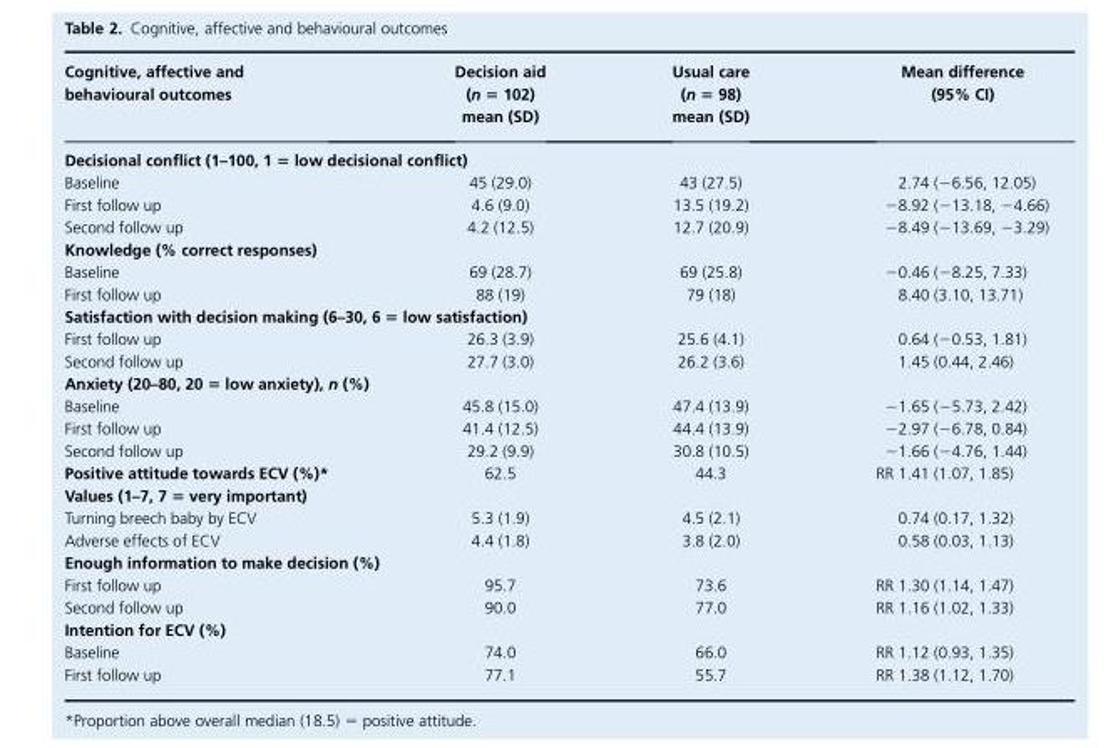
<table><thead><tr><td>Cognitive, affective and behavioural outcomes</td><td>Decision aid (n = 102) mean (SD)</td><td>Usual care (n = 98) mean (SD)</td><td>Mean difference (95% CI)</td></tr></thead><tbody><tr><td colspan="4">Decisional conflict (1–100, 1 5 low decisional conflict)</td></tr><tr><td>Baseline</td><td>45 (29.0)</td><td>43 (27.5)</td><td>2.74 (−6.56, 12.05)</td></tr><tr><td>First follow up</td><td>4.6 (9.0)</td><td>13.5 (19.2)</td><td>−8.92 (−13.18, −4.66)</td></tr><tr><td>Second follow up</td><td>4.2 (12.5)</td><td>12.7 (20.9)</td><td>−8.49 (−13.69, −3.29)</td></tr><tr><td colspan="4">Knowledge (% correct responses)</td></tr><tr><td>Baseline</td><td>69 (28.7)</td><td>69 (25.8)</td><td>−0.46 (−8.25, 7.33)</td></tr><tr><td>First follow up</td><td>88 (19)</td><td>79 (18)</td><td>8.40 (3.10, 13.71)</td></tr><tr><td colspan="4">Satisfaction with decision making (6–30, 6 = low satisfaction)</td></tr><tr><td>First follow up</td><td>26.3 (3.9)</td><td>25.6 (4.1)</td><td>0.64 (−0.53, 1.81)</td></tr><tr><td>Second follow up</td><td>27.7 (3.0)</td><td>26.2 (3.6)</td><td>1.45 (0.44, 2.46)</td></tr><tr><td colspan="4">Anxiety (20–80, 20 = low anxiety), n (%)</td></tr><tr><td>Baseline</td><td>45.8 (15.0)</td><td>47.4 (13.9)</td><td>−1.65 (−5.73, 2.42)</td></tr><tr><td>First follow up</td><td>41.4 (12.5)</td><td>44.4 (13.9)</td><td>−2.97 (−6.78, 0.84)</td></tr><tr><td>Second follow up</td><td>29.2 (9.9)</td><td>30.8 (10.5)</td><td>−1.66 (−4.76, 1.44)</td></tr><tr><td>Positive attitude towards ECV (%)*</td><td>62.5</td><td>44.3</td><td>RR 1.41 (1.07, 1.85)</td></tr><tr><td colspan="4">Values (1–7, 7 = very important)</td></tr><tr><td>Turning breech baby by ECV</td><td>5.3 (1.9)</td><td>4.5 (2.1)</td><td>0.74 (0.17, 1.32)</td></tr><tr><td>Adverse effects of ECV</td><td>4.4 (1.8)</td><td>3.8 (2.0)</td><td>0.58 (0.03, 1.13)</td></tr><tr><td colspan="4">Enough information to make decision (%)</td></tr><tr><td>First follow up</td><td>95.7</td><td>73.6</td><td>RR 1.30 (1.14, 1.47)</td></tr><tr><td>Second follow up</td><td>90.0</td><td>77.0</td><td>RR 1.16 (1.02, 1.33)</td></tr><tr><td colspan="4">Intention for ECV (%)</td></tr><tr><td>Baseline</td><td>74.0</td><td>66.0</td><td>RR 1.12 (0.93, 1.35)</td></tr><tr><td>First follow up</td><td>77.1</td><td>55.7</td><td>RR 1.38 (1.12, 1.70)</td></tr></tbody></table>